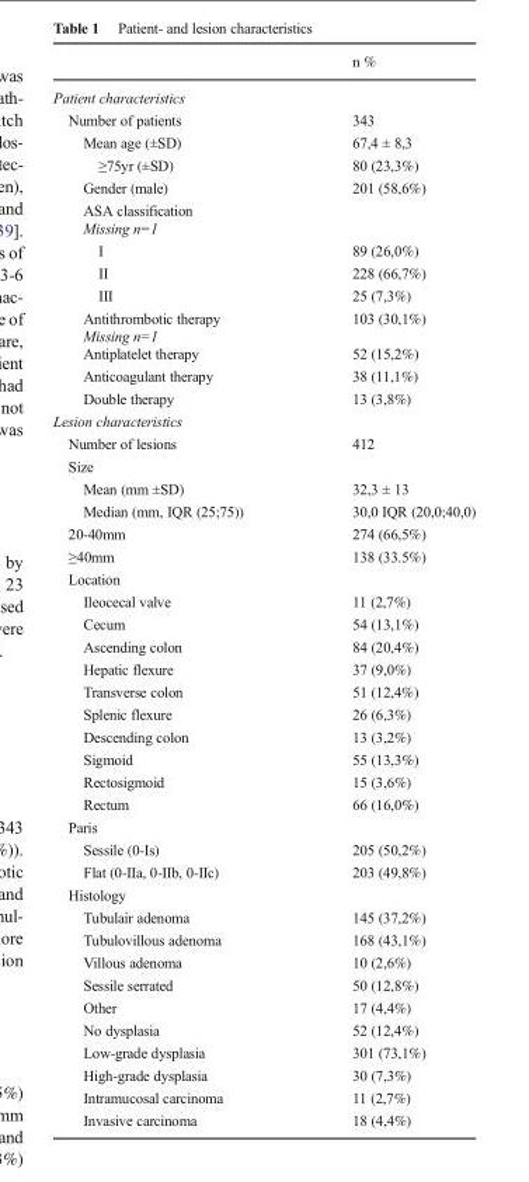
<table><thead><tr><td></td><td>n %</td></tr></thead><tbody><tr><td colspan="2">Patient characteristics</td></tr><tr><td>Number of patients</td><td>343</td></tr><tr><td>Mean age (±SD)</td><td>67,4 ± 8,3</td></tr><tr><td>≥75yr (±SD)</td><td>80 (23,3%)</td></tr><tr><td>Gender (male)</td><td>201 (58,6%)</td></tr><tr><td colspan="2">ASA classification Missing n=1</td></tr><tr><td>I</td><td>89 (26,0%)</td></tr><tr><td>II</td><td>228 (66,7%)</td></tr><tr><td>III</td><td>25 (7,3%)</td></tr><tr><td>Antithrombotic therapy Missing n=1</td><td>103 (30,1%)</td></tr><tr><td>Antiplatelet therapy</td><td>52 (15,2%)</td></tr><tr><td>Anticoagulant therapy</td><td>38 (11,1%)</td></tr><tr><td>Double therapy</td><td>13 (3,8%)</td></tr><tr><td colspan="2">Lesion characteristics</td></tr><tr><td>Number of lesions</td><td>412</td></tr><tr><td colspan="2">Size</td></tr><tr><td>Mean (mm ±SD)</td><td>32,3 ± 13</td></tr><tr><td>Median (mm, IQR (25;75))</td><td>30,0 IQR (20,0;40,0)</td></tr><tr><td>20-40mm</td><td>274 (66,5%)</td></tr><tr><td>≥40mm</td><td>138 (33.5%)</td></tr><tr><td colspan="2">Location</td></tr><tr><td>Ileocecal valve</td><td>11 (2,7%)</td></tr><tr><td>Cecum</td><td>54 (13,1%)</td></tr><tr><td>Ascending colon</td><td>84 (20,4%)</td></tr><tr><td>Hepatic flexure</td><td>37 (9,0%)</td></tr><tr><td>Transverse colon</td><td>51 (12,4%)</td></tr><tr><td>Splenic flexure</td><td>26 (6,3%)</td></tr><tr><td>Descending colon</td><td>13 (3,2%)</td></tr><tr><td>Sigmoid</td><td>55 (13,3%)</td></tr><tr><td>Rectosigmoid</td><td>15 (3,6%)</td></tr><tr><td>Rectum</td><td>66 (16,0%)</td></tr><tr><td colspan="2">Paris</td></tr><tr><td>Sessile (0-Is)</td><td>205 (50,2%)</td></tr><tr><td>Flat (0-IIa, 0-IIb, 0-IIc)</td><td>203 (49,8%)</td></tr><tr><td colspan="2">Histology</td></tr><tr><td>Tubulair adenoma</td><td>145 (37,2%)</td></tr><tr><td>Tubulovillous adenoma</td><td>168 (43,1%)</td></tr><tr><td>Villous adenoma</td><td>10 (2,6%)</td></tr><tr><td>Sessile serrated</td><td>50 (12,8%)</td></tr><tr><td>Other</td><td>17 (4,4%)</td></tr><tr><td>No dysplasia</td><td>52 (12,4%)</td></tr><tr><td>Low-grade dysplasia</td><td>301 (73,1%)</td></tr><tr><td>High-grade dysplasia</td><td>30 (7,3%)</td></tr><tr><td>Intramucosal carcinoma</td><td>11 (2,7%)</td></tr><tr><td>Invasive carcinoma</td><td>18 (4,4%)</td></tr></tbody></table>